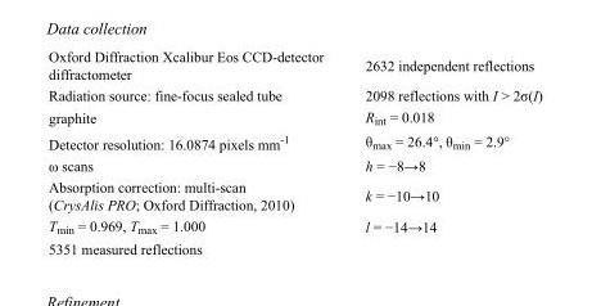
<table><tbody><tr><td>Oxford Diffraction Xcalibur Eos CCD-detector diffractometer</td><td>2632 independent reflections</td></tr><tr><td>Radiation source: fine-focus sealed tube</td><td>2098 reflections with I &gt; 2σ(I)</td></tr><tr><td>graphite</td><td>R<sub>int</sub> = 0.018</td></tr><tr><td>Detector resolution: 16.0874 pixels mm<sup>-1</sup></td><td>θ<sub>max</sub> = 26.4°, θ<sub>min</sub> = 2.9°</td></tr><tr><td>ω scans</td><td>h = −8→8</td></tr><tr><td>Absorption correction: multi-scan (CrysAlis PRO; Oxford Diffraction, 2010)</td><td>k = −10→10</td></tr><tr><td>T<sub>min</sub> = 0.969, T<sub>max</sub> = 1.000</td><td>l = −14→14</td></tr><tr><td>5351 measured reflections</td><td></td></tr></tbody></table>